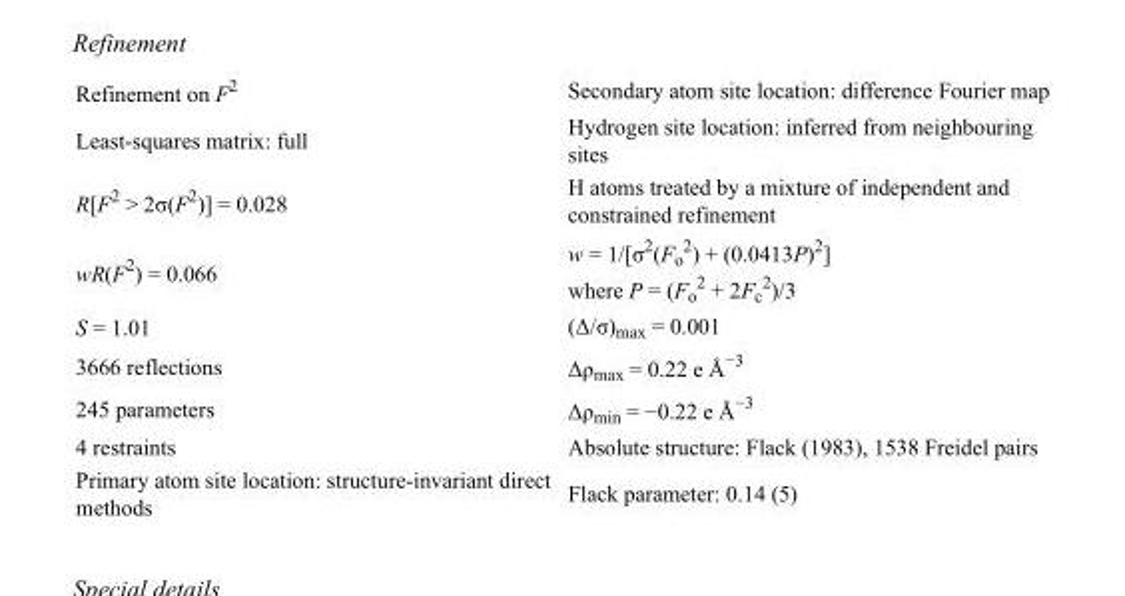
<table><tbody><tr><td>Refinement on F<sup>2</sup></td><td>Secondary atom site location: difference Fourier map</td></tr><tr><td>Least-squares matrix: full</td><td>Hydrogen site location: inferred from neighbouring sites</td></tr><tr><td>R[F<sup>2</sup> &gt; 2σ(F<sup>2</sup>)] = 0.028</td><td>H atoms treated by a mixture of independent and constrained refinement</td></tr><tr><td>wR(F<sup>2</sup>) = 0.066</td><td>w = 1/[σ<sup>2</sup>(F<sub>o</sub> <sup>2</sup>) + (0.0413P)<sup>2</sup>] where P = (F<sub>o</sub> <sup>2</sup> + 2F<sub>c</sub> <sup>2</sup>)/3</td></tr><tr><td>S = 1.01</td><td>(Δ/σ)<sub>max</sub> = 0.001</td></tr><tr><td>3666 reflections</td><td>Δρ<sub>max</sub> = 0.22 e Å<sup>−3</sup></td></tr><tr><td>245 parameters</td><td>Δρ<sub>min</sub> = −0.22 e Å<sup>−3</sup></td></tr><tr><td>4 restraints</td><td>Absolute structure: Flack (1983), 1538 Freidel pairs</td></tr><tr><td>Primary atom site location: structure-invariant direct methods</td><td>Flack parameter: 0.14 (5)</td></tr></tbody></table>